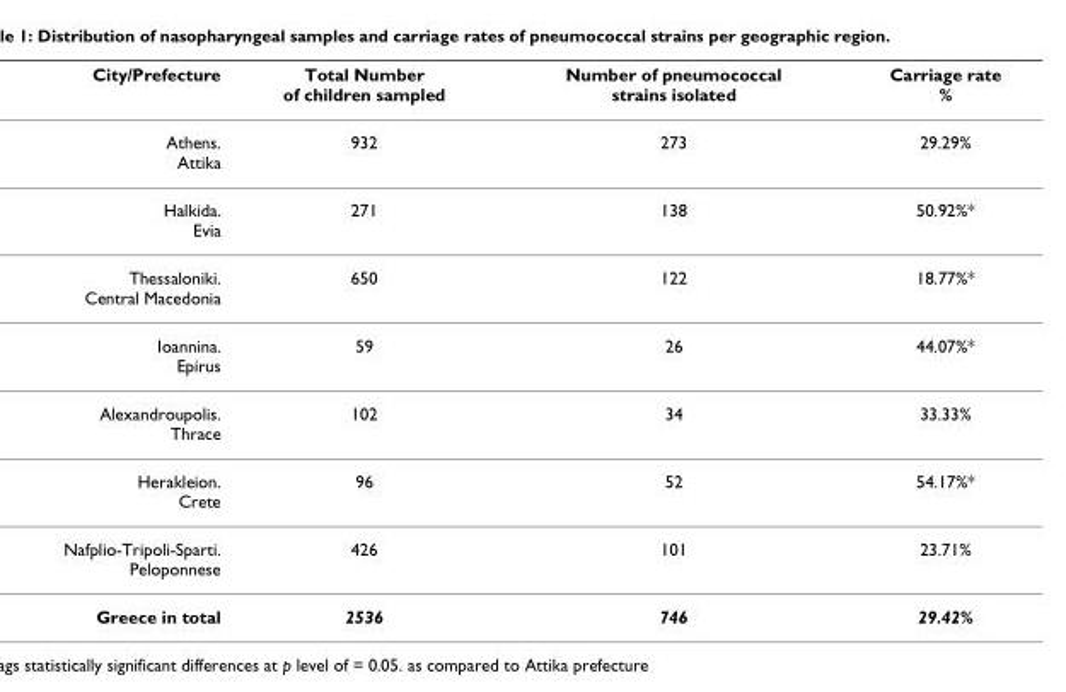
<table><thead><tr><td>City/Prefecture</td><td>Total Number of children sampled</td><td>Number of pneumococcal strains isolated</td><td>Carriage rate %</td></tr></thead><tbody><tr><td>Athens. Attika</td><td>932</td><td>273</td><td>29.29%</td></tr><tr><td>Halkida. Evia</td><td>271</td><td>138</td><td>50.92%*</td></tr><tr><td>Thessaloniki. Central Macedonia</td><td>650</td><td>122</td><td>18.77%*</td></tr><tr><td>Ioannina. Epirus</td><td>59</td><td>26</td><td>44.07%*</td></tr><tr><td>Alexandroupolis. Thrace</td><td>102</td><td>34</td><td>33.33%</td></tr><tr><td>Herakleion. Crete</td><td>96</td><td>52</td><td>54.17%*</td></tr><tr><td>Nafplio-Tripoli-Sparti. Peloponnese</td><td>426</td><td>101</td><td>23.71%</td></tr><tr><td>Greece in total</td><td>2536</td><td>746</td><td>29.42%</td></tr></tbody></table>